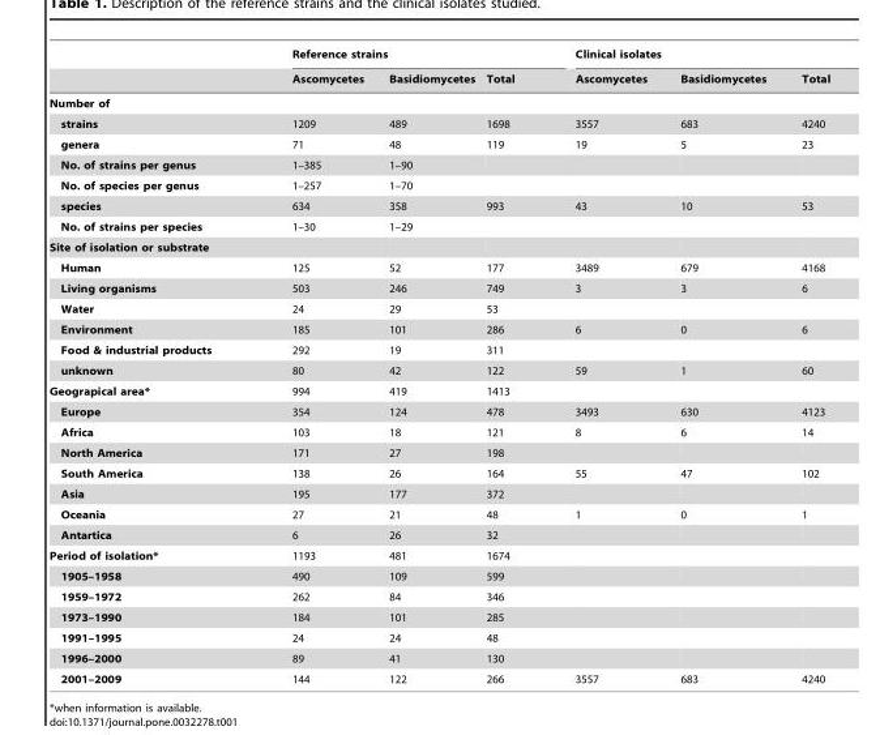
<table><thead><tr><td rowspan="2"></td><td colspan="3">Reference strains</td><td colspan="3">Clinical isolates</td></tr><tr><td>Ascomycetes</td><td>Basidiomycetes</td><td>Total</td><td>Ascomycetes</td><td>Basidiomycetes</td><td>Total</td></tr></thead><tbody><tr><td colspan="7">Number of</td></tr><tr><td>strains</td><td>1209</td><td>489</td><td>1698</td><td>3557</td><td>683</td><td>4240</td></tr><tr><td>genera</td><td>71</td><td>48</td><td>119</td><td>19</td><td>5</td><td>23</td></tr><tr><td>No. of strains per genus</td><td>1–385</td><td>1–90</td><td></td><td></td><td></td><td></td></tr><tr><td>No. of species per genus</td><td>1–257</td><td>1–70</td><td></td><td></td><td></td><td></td></tr><tr><td>species</td><td>634</td><td>358</td><td>993</td><td>43</td><td>10</td><td>53</td></tr><tr><td>No. of strains per species</td><td>1–30</td><td>1–29</td><td></td><td></td><td></td><td></td></tr><tr><td colspan="7">Site of isolation or substrate</td></tr><tr><td>Human</td><td>125</td><td>52</td><td>177</td><td>3489</td><td>679</td><td>4168</td></tr><tr><td>Living organisms</td><td>503</td><td>246</td><td>749</td><td>3</td><td>3</td><td>6</td></tr><tr><td>Water</td><td>24</td><td>29</td><td>53</td><td></td><td></td><td></td></tr><tr><td>Environment</td><td>185</td><td>101</td><td>286</td><td>6</td><td>0</td><td>6</td></tr><tr><td>Food &amp; industrial products</td><td>292</td><td>19</td><td>311</td><td></td><td></td><td></td></tr><tr><td>unknown</td><td>80</td><td>42</td><td>122</td><td>59</td><td>1</td><td>60</td></tr><tr><td>Geograpical area*</td><td>994</td><td>419</td><td>1413</td><td></td><td></td><td></td></tr><tr><td>Europe</td><td>354</td><td>124</td><td>478</td><td>3493</td><td>630</td><td>4123</td></tr><tr><td>Africa</td><td>103</td><td>18</td><td>121</td><td>8</td><td>6</td><td>14</td></tr><tr><td>North America</td><td>171</td><td>27</td><td>198</td><td></td><td></td><td></td></tr><tr><td>South America</td><td>138</td><td>26</td><td>164</td><td>55</td><td>47</td><td>102</td></tr><tr><td>Asia</td><td>195</td><td>177</td><td>372</td><td></td><td></td><td></td></tr><tr><td>Oceania</td><td>27</td><td>21</td><td>48</td><td>1</td><td>0</td><td>1</td></tr><tr><td>Antartica</td><td>6</td><td>26</td><td>32</td><td></td><td></td><td></td></tr><tr><td>Period of isolation*</td><td>1193</td><td>481</td><td>1674</td><td></td><td></td><td></td></tr><tr><td>1905–1958</td><td>490</td><td>109</td><td>599</td><td></td><td></td><td></td></tr><tr><td>1959–1972</td><td>262</td><td>84</td><td>346</td><td></td><td></td><td></td></tr><tr><td>1973–1990</td><td>184</td><td>101</td><td>285</td><td></td><td></td><td></td></tr><tr><td>1991–1995</td><td>24</td><td>24</td><td>48</td><td></td><td></td><td></td></tr><tr><td>1996–2000</td><td>89</td><td>41</td><td>130</td><td></td><td></td><td></td></tr><tr><td>2001–2009</td><td>144</td><td>122</td><td>266</td><td>3557</td><td>683</td><td>4240</td></tr></tbody></table>